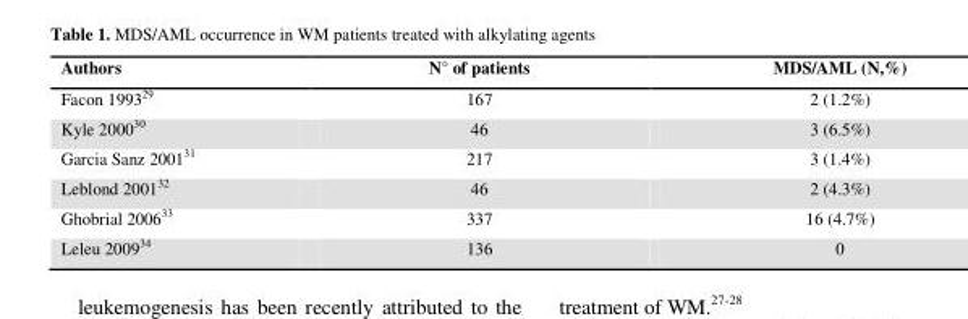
<table><thead><tr><td>Authors</td><td>N° of patients</td><td>MDS/AML (N,%)</td></tr></thead><tbody><tr><td>Facon 1993<sup>29</sup></td><td>167</td><td>2 (1.2%)</td></tr><tr><td>Kyle 2000<sup>30</sup></td><td>46</td><td>3 (6.5%)</td></tr><tr><td>Garcia Sanz 2001<sup>31</sup></td><td>217</td><td>3 (1.4%)</td></tr><tr><td>Leblond 2001<sup>32</sup></td><td>46</td><td>2 (4.3%)</td></tr><tr><td>Ghobrial 2006<sup>33</sup></td><td>337</td><td>16 (4.7%)</td></tr><tr><td>Leleu 2009<sup>34</sup></td><td>136</td><td>0</td></tr></tbody></table>